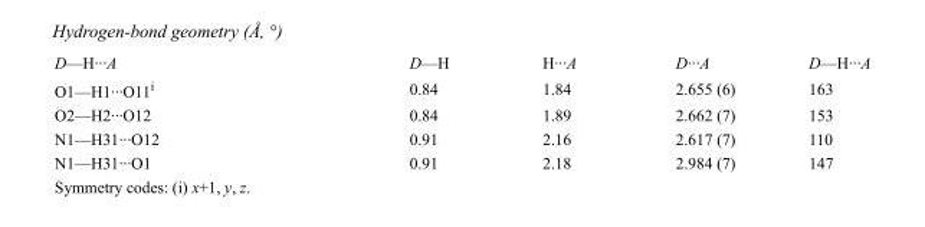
<table><tbody><tr><td>D—H···A</td><td>D—H</td><td>H···A</td><td>D···A</td><td>D—H···A</td></tr><tr><td>O1—H1···O11<sup>i</sup></td><td>0.84</td><td>1.84</td><td>2.655 (6)</td><td>163</td></tr><tr><td>O2—H2···O12</td><td>0.84</td><td>1.89</td><td>2.662 (7)</td><td>153</td></tr><tr><td>N1—H31···O12</td><td>0.91</td><td>2.16</td><td>2.617 (7)</td><td>110</td></tr><tr><td>N1—H31···O1</td><td>0.91</td><td>2.18</td><td>2.984 (7)</td><td>147</td></tr></tbody></table>